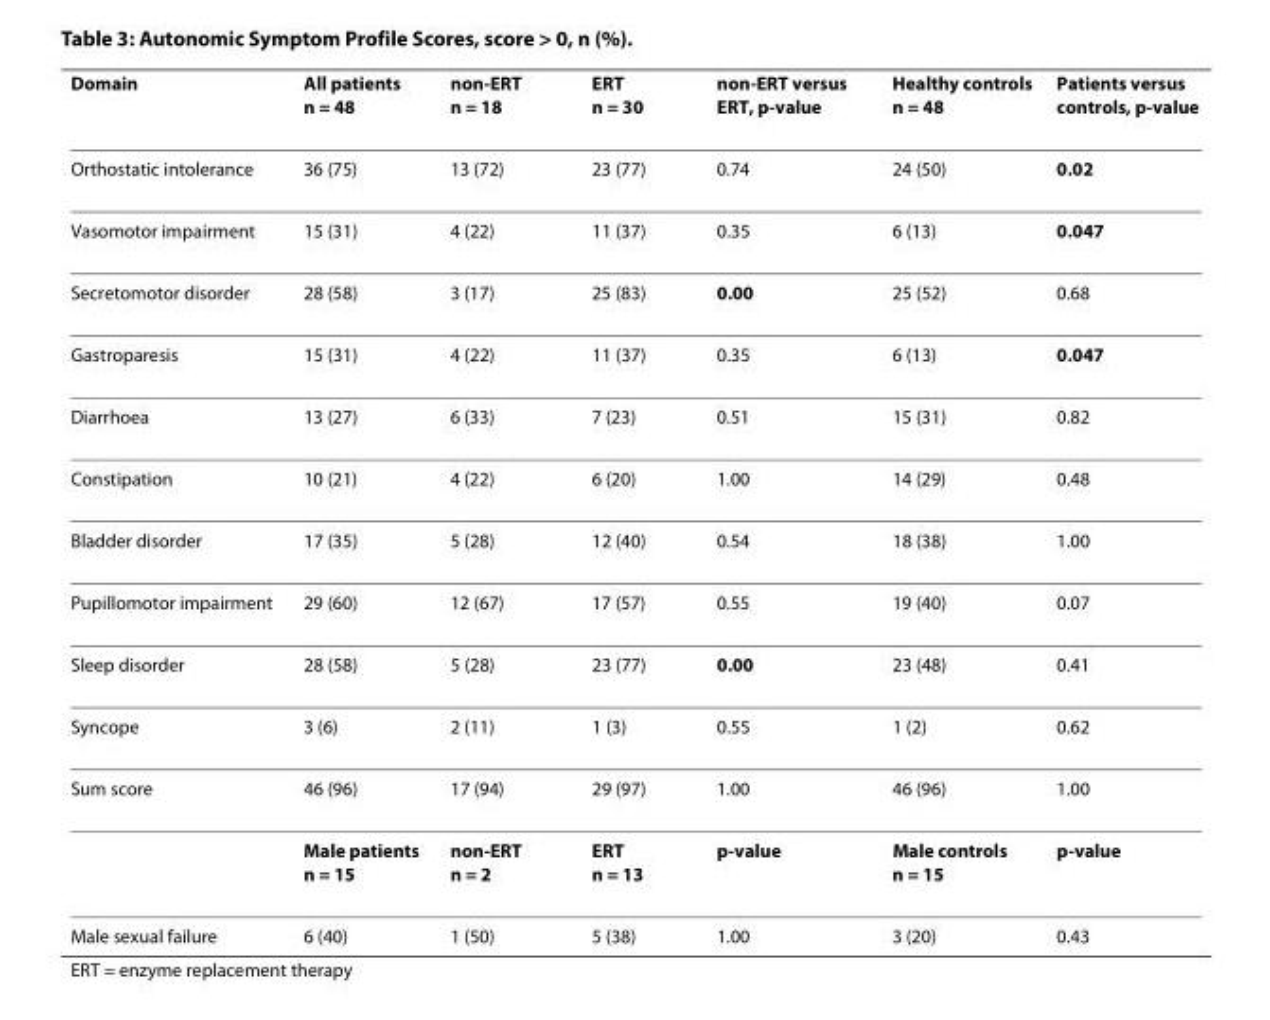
<table><thead><tr><td>Domain</td><td>All patients n = 48</td><td>non-ERT n = 18</td><td>ERT n = 30</td><td>non-ERT versus ERT, p-value</td><td>Healthy controls n = 48</td><td>Patients versus controls, p-value</td></tr></thead><tbody><tr><td>Orthostatic intolerance</td><td>36 (75)</td><td>13 (72)</td><td>23 (77)</td><td>0.74</td><td>24 (50)</td><td>0.02</td></tr><tr><td>Vasomotor impairment</td><td>15 (31)</td><td>4 (22)</td><td>11 (37)</td><td>0.35</td><td>6 (13)</td><td>0.047</td></tr><tr><td>Secretomotor disorder</td><td>28 (58)</td><td>3 (17)</td><td>25 (83)</td><td>0.00</td><td>25 (52)</td><td>0.68</td></tr><tr><td>Gastroparesis</td><td>15 (31)</td><td>4 (22)</td><td>11 (37)</td><td>0.35</td><td>6 (13)</td><td>0.047</td></tr><tr><td>Diarrhoea</td><td>13 (27)</td><td>6 (33)</td><td>7 (23)</td><td>0.51</td><td>15 (31)</td><td>0.82</td></tr><tr><td>Constipation</td><td>10 (21)</td><td>4 (22)</td><td>6 (20)</td><td>1.00</td><td>14 (29)</td><td>0.48</td></tr><tr><td>Bladder disorder</td><td>17 (35)</td><td>5 (28)</td><td>12 (40)</td><td>0.54</td><td>18 (38)</td><td>1.00</td></tr><tr><td>Pupillomotor impairment</td><td>29 (60)</td><td>12 (67)</td><td>17 (57)</td><td>0.55</td><td>19 (40)</td><td>0.07</td></tr><tr><td>Sleep disorder</td><td>28 (58)</td><td>5 (28)</td><td>23 (77)</td><td>0.00</td><td>23 (48)</td><td>0.41</td></tr><tr><td>Syncope</td><td>3 (6)</td><td>2 (11)</td><td>1 (3)</td><td>0.55</td><td>1 (2)</td><td>0.62</td></tr><tr><td rowspan="2">Sum score</td><td>46 (96)</td><td>17 (94)</td><td>29 (97)</td><td>1.00</td><td>46 (96)</td><td>1.00</td></tr><tr><td>Male patients n = 15</td><td>non-ERT n = 2</td><td>ERT n = 13</td><td>p-value</td><td>Male controls n = 15</td><td>p-value</td></tr><tr><td>Male sexual failure</td><td>6 (40)</td><td>1 (50)</td><td>5 (38)</td><td>1.00</td><td>3 (20)</td><td>0.43</td></tr></tbody></table>